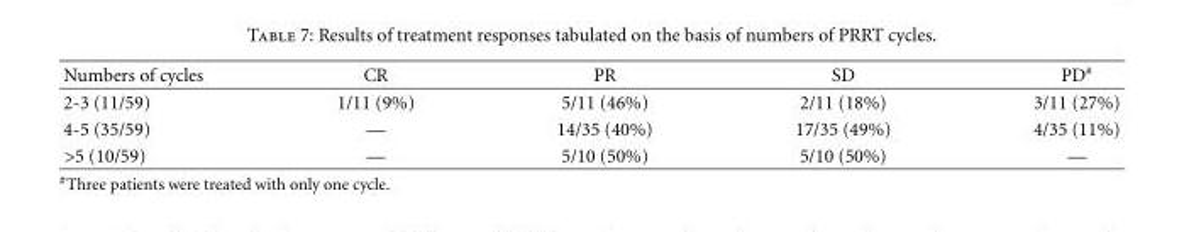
<table><thead><tr><td>Numbers of cycles</td><td>CR</td><td>PR</td><td>SD</td><td>PD<sup>#</sup></td></tr></thead><tbody><tr><td>2-3 (11/59)</td><td>1/11 (9%)</td><td>5/11 (46%)</td><td>2/11 (18%)</td><td>3/11 (27%)</td></tr><tr><td>4-5 (35/59)</td><td>—</td><td>14/35 (40%)</td><td>17/35 (49%)</td><td>4/35 (11%)</td></tr><tr><td>&gt;5 (10/59)</td><td>—</td><td>5/10 (50%)</td><td>5/10 (50%)</td><td>—</td></tr></tbody></table>